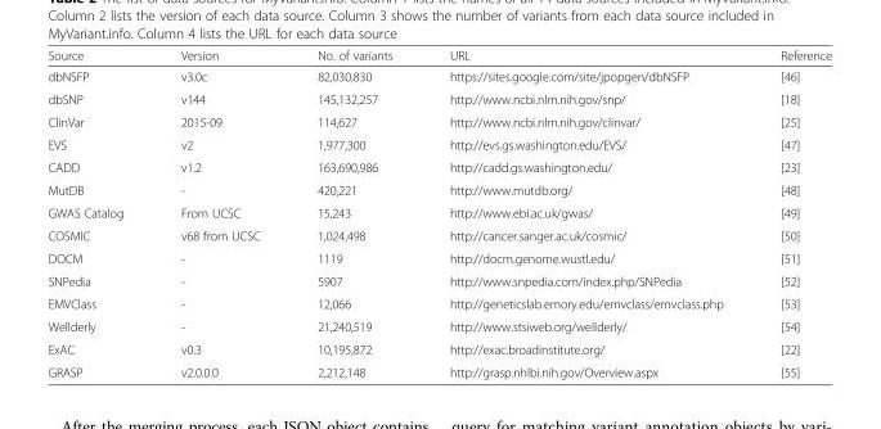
<table><thead><tr><td>Source</td><td>Version</td><td>No. of variants</td><td>URL</td><td>Reference</td></tr></thead><tbody><tr><td>dbNSFP</td><td>v3.0c</td><td>82,030,830</td><td>https://sites.google.com/site/jpopgen/dbNSFP</td><td>[46]</td></tr><tr><td>dbSNP</td><td>v144</td><td>145,132,257</td><td>http://www.ncbi.nlm.nih.gov/snp/</td><td>[18]</td></tr><tr><td>ClinVar</td><td>2015-09</td><td>114,627</td><td>http://www.ncbi.nlm.nih.gov/clinvar/</td><td>[25]</td></tr><tr><td>EVS</td><td>v2</td><td>1,977,300</td><td>http://evs.gs.washington.edu/EVS/</td><td>[47]</td></tr><tr><td>CADD</td><td>v1.2</td><td>163,690,986</td><td>http://cadd.gs.washington.edu/</td><td>[23]</td></tr><tr><td>MutDB</td><td>-</td><td>420,221</td><td>http://www.mutdb.org/</td><td>[48]</td></tr><tr><td>GWAS Catalog</td><td>From UCSC</td><td>15,243</td><td>http://www.ebi.ac.uk/gwas/</td><td>[49]</td></tr><tr><td>COSMIC</td><td>v68 from UCSC</td><td>1,024,498</td><td>http://cancer.sanger.ac.uk/cosmic/</td><td>[50]</td></tr><tr><td>DOCM</td><td>-</td><td>1119</td><td>http://docm.genome.wustl.edu/</td><td>[51]</td></tr><tr><td>SNPedia</td><td>-</td><td>5907</td><td>http://www.snpedia.com/index.php/SNPedia</td><td>[52]</td></tr><tr><td>EMVClass</td><td>-</td><td>12,066</td><td>http://geneticslab.emory.edu/emvclass/emvclass.php</td><td>[53]</td></tr><tr><td>Wellderly</td><td>-</td><td>21,240,519</td><td>http://www.stsiweb.org/wellderly/</td><td>[54]</td></tr><tr><td>ExAC</td><td>v0.3</td><td>10,195,872</td><td>http://exac.broadinstitute.org/</td><td>[22]</td></tr><tr><td>GRASP</td><td>v2.0.0.0</td><td>2,212,148</td><td>http://grasp.nhlbi.nih.gov/Overview.aspx</td><td>[55]</td></tr></tbody></table>